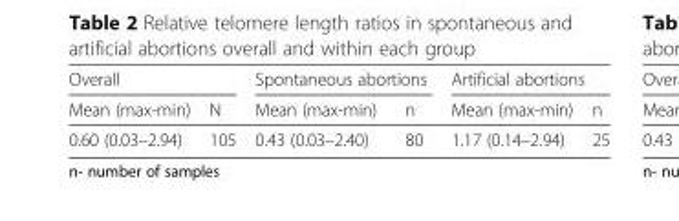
<table><thead><tr><td colspan="2">Overall</td><td colspan="2">Spontaneous abortions</td><td colspan="2">Artificial abortions</td></tr><tr><td>Mean (max-min)</td><td>N</td><td>Mean (max-min)</td><td>n</td><td>Mean (max-min)</td><td>n</td></tr></thead><tbody><tr><td>0.60 (0.03–2.94)</td><td>105</td><td>0.43 (0.03–2.40)</td><td>80</td><td>1.17 (0.14–2.94)</td><td>25</td></tr></tbody></table>